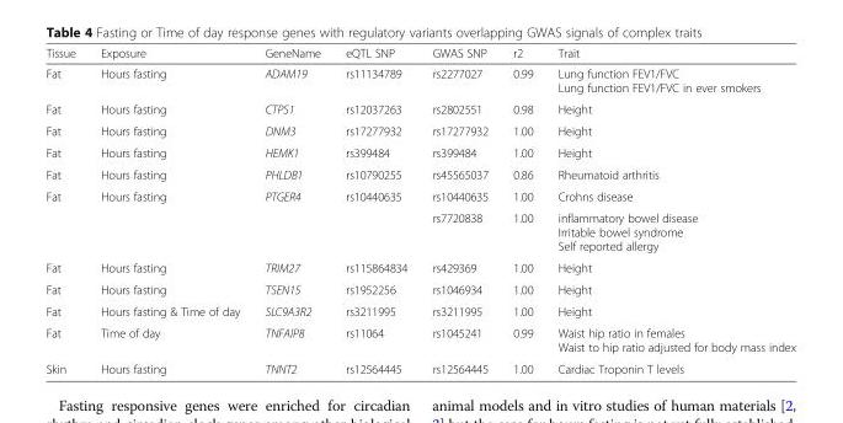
<table><thead><tr><td>Tissue</td><td>Exposure</td><td>GeneName</td><td>eQTL SNP</td><td>GWAS SNP</td><td>r2</td><td>Trait</td></tr></thead><tbody><tr><td>Fat</td><td>Hours fasting</td><td>ADAM19</td><td>rs11134789</td><td>rs2277027</td><td>0.99</td><td>Lung function FEV1/FVC Lung function FEV1/FVC in ever smokers</td></tr><tr><td>Fat</td><td>Hours fasting</td><td>CTPS1</td><td>rs12037263</td><td>rs2802551</td><td>0.98</td><td>Height</td></tr><tr><td>Fat</td><td>Hours fasting</td><td>DNM3</td><td>rs17277932</td><td>rs17277932</td><td>1.00</td><td>Height</td></tr><tr><td>Fat</td><td>Hours fasting</td><td>HEMK1</td><td>rs399484</td><td>rs399484</td><td>1.00</td><td>Height</td></tr><tr><td>Fat</td><td>Hours fasting</td><td>PHLDB1</td><td>rs10790255</td><td>rs45565037</td><td>0.86</td><td>Rheumatoid arthritis</td></tr><tr><td rowspan="2">Fat</td><td>Hours fasting</td><td>PTGER4</td><td>rs10440635</td><td>rs10440635</td><td>1.00</td><td>Crohns disease</td></tr><tr><td></td><td></td><td></td><td>rs7720838</td><td>1.00</td><td>inflammatory bowel disease Irritable bowel syndrome Self reported allergy</td></tr><tr><td>Fat</td><td>Hours fasting</td><td>TRIM27</td><td>rs115864834</td><td>rs429369</td><td>1.00</td><td>Height</td></tr><tr><td>Fat</td><td>Hours fasting</td><td>TSEN15</td><td>rs1952256</td><td>rs1046934</td><td>1.00</td><td>Height</td></tr><tr><td>Fat</td><td>Hours fasting &amp; Time of day</td><td>SLC9A3R2</td><td>rs3211995</td><td>rs3211995</td><td>1.00</td><td>Height</td></tr><tr><td>Fat</td><td>Time of day</td><td>TNFAIP8</td><td>rs11064</td><td>rs1045241</td><td>0.99</td><td>Waist hip ratio in females Waist to hip ratio adjusted for body mass index</td></tr><tr><td>Skin</td><td>Hours fasting</td><td>TNNT2</td><td>rs12564445</td><td>rs12564445</td><td>1.00</td><td>Cardiac Troponin T levels</td></tr></tbody></table>